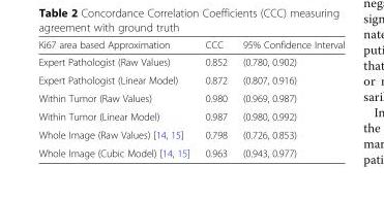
<table><thead><tr><td>Ki67 area based Approximation</td><td>CCC</td><td>95% Confidence Interval</td></tr></thead><tbody><tr><td>Expert Pathologist (Raw Values)</td><td>0.852</td><td>(0.780, 0.902)</td></tr><tr><td>Expert Pathologist (Linear Model)</td><td>0.872</td><td>(0.807, 0.916)</td></tr><tr><td>Within Tumor (Raw Values)</td><td>0.980</td><td>(0.969, 0.987)</td></tr><tr><td>Within Tumor (Linear Model)</td><td>0.987</td><td>(0.980, 0.992)</td></tr><tr><td>Whole Image (Raw Values) [14, 15]</td><td>0.798</td><td>(0.726, 0.853)</td></tr><tr><td>Whole Image (Cubic Model) [14, 15]</td><td>0.963</td><td>(0.943, 0.977)</td></tr></tbody></table>